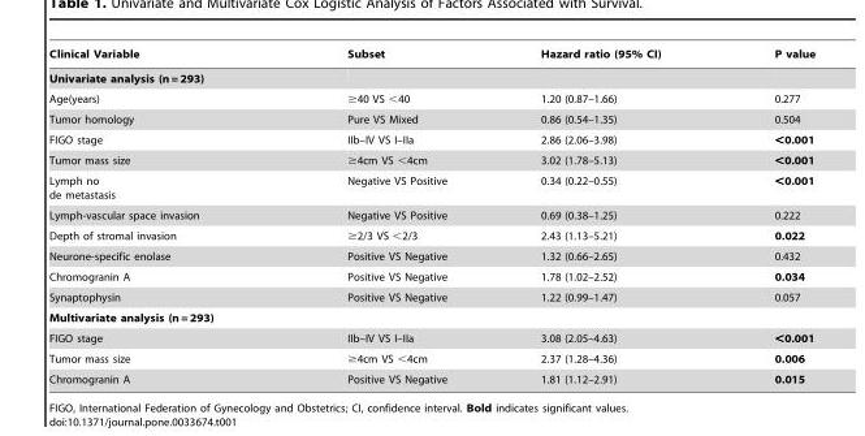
<table><thead><tr><td>Clinical Variable</td><td>Subset</td><td>Hazard ratio (95% CI)</td><td>P value</td></tr></thead><tbody><tr><td colspan="4">Univariate analysis (n = 293)</td></tr><tr><td>Age(years)</td><td>≥40 VS &lt;40</td><td>1.20 (0.87–1.66)</td><td>0.277</td></tr><tr><td>Tumor homology</td><td>Pure VS Mixed</td><td>0.86 (0.54–1.35)</td><td>0.504</td></tr><tr><td>FIGO stage</td><td>IIb–IV VS I–IIa</td><td>2.86 (2.06–3.98)</td><td>&lt;0.001</td></tr><tr><td>Tumor mass size</td><td>≥4cm VS &lt;4cm</td><td>3.02 (1.78–5.13)</td><td>&lt;0.001</td></tr><tr><td>Lymph no de metastasis</td><td>Negative VS Positive</td><td>0.34 (0.22–0.55)</td><td>&lt;0.001</td></tr><tr><td>Lymph-vascular space invasion</td><td>Negative VS Positive</td><td>0.69 (0.38–1.25)</td><td>0.222</td></tr><tr><td>Depth of stromal invasion</td><td>≥2/3 VS &lt;2/3</td><td>2.43 (1.13–5.21)</td><td>0.022</td></tr><tr><td>Neurone-specific enolase</td><td>Positive VS Negative</td><td>1.32 (0.66–2.65)</td><td>0.432</td></tr><tr><td>Chromogranin A</td><td>Positive VS Negative</td><td>1.78 (1.02–2.52)</td><td>0.034</td></tr><tr><td>Synaptophysin</td><td>Positive VS Negative</td><td>1.22 (0.99–1.47)</td><td>0.057</td></tr><tr><td colspan="4">Multivariate analysis (n = 293)</td></tr><tr><td>FIGO stage</td><td>IIb–IV VS I–IIa</td><td>3.08 (2.05–4.63)</td><td>&lt;0.001</td></tr><tr><td>Tumor mass size</td><td>≥4cm VS &lt;4cm</td><td>2.37 (1.28–4.36)</td><td>0.006</td></tr><tr><td>Chromogranin A</td><td>Positive VS Negative</td><td>1.81 (1.12–2.91)</td><td>0.015</td></tr></tbody></table>